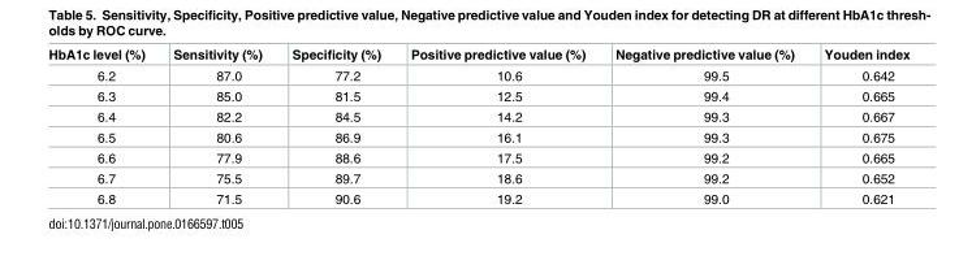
<table><thead><tr><td>HbA1c level (%)</td><td>Sensitivity (%)</td><td>Specificity (%)</td><td>Positive predictive value (%)</td><td>Negative predictive value (%)</td><td>Youden index</td></tr></thead><tbody><tr><td>6.2</td><td>87.0</td><td>77.2</td><td>10.6</td><td>99.5</td><td>0.642</td></tr><tr><td>6.3</td><td>85.0</td><td>81.5</td><td>12.5</td><td>99.4</td><td>0.665</td></tr><tr><td>6.4</td><td>82.2</td><td>84.5</td><td>14.2</td><td>99.3</td><td>0.667</td></tr><tr><td>6.5</td><td>80.6</td><td>86.9</td><td>16.1</td><td>99.3</td><td>0.675</td></tr><tr><td>6.6</td><td>77.9</td><td>88.6</td><td>17.5</td><td>99.2</td><td>0.665</td></tr><tr><td>6.7</td><td>75.5</td><td>89.7</td><td>18.6</td><td>99.2</td><td>0.652</td></tr><tr><td>6.8</td><td>71.5</td><td>90.6</td><td>19.2</td><td>99.0</td><td>0.621</td></tr></tbody></table>